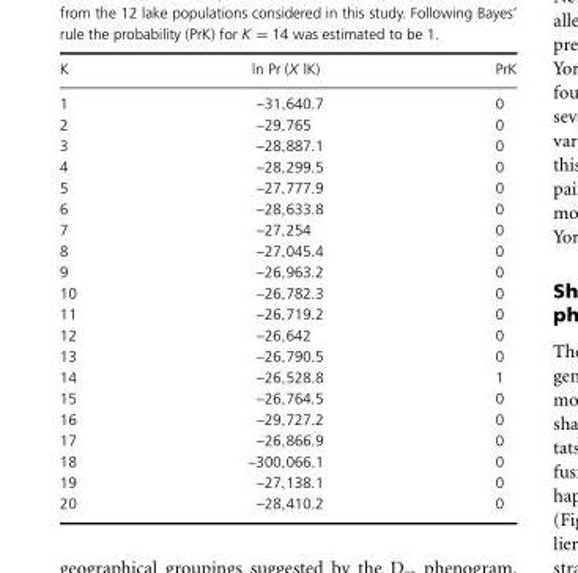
<table><thead><tr><td>K</td><td>ln Pr (X |K)</td><td>PrK</td></tr></thead><tbody><tr><td>1</td><td>–31,640.7</td><td>0</td></tr><tr><td>2</td><td>–29,765</td><td>0</td></tr><tr><td>3</td><td>–28,887.1</td><td>0</td></tr><tr><td>4</td><td>–28,299.5</td><td>0</td></tr><tr><td>5</td><td>–27,777.9</td><td>0</td></tr><tr><td>6</td><td>–28,633.8</td><td>0</td></tr><tr><td>7</td><td>–27,254</td><td>0</td></tr><tr><td>8</td><td>–27,045.4</td><td>0</td></tr><tr><td>9</td><td>–26,963.2</td><td>0</td></tr><tr><td>10</td><td>–26,782.3</td><td>0</td></tr><tr><td>11</td><td>–26,719.2</td><td>0</td></tr><tr><td>12</td><td>–26,642</td><td>0</td></tr><tr><td>13</td><td>–26,790.5</td><td>0</td></tr><tr><td>14</td><td>–26,528.8</td><td>1</td></tr><tr><td>15</td><td>–26,764.5</td><td>0</td></tr><tr><td>16</td><td>–29,727.2</td><td>0</td></tr><tr><td>17</td><td>–26,866.9</td><td>0</td></tr><tr><td>18</td><td>–300,066.1</td><td>0</td></tr><tr><td>19</td><td>–27,138.1</td><td>0</td></tr><tr><td>20</td><td>–28,410.2</td><td>0</td></tr></tbody></table>